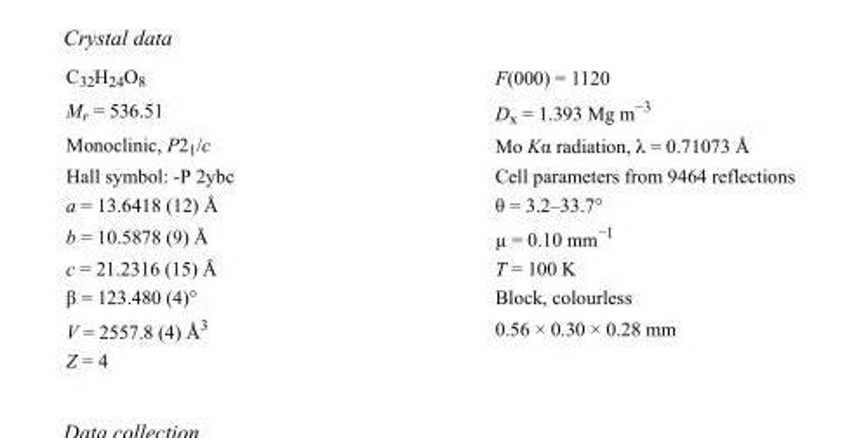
<table><tbody><tr><td>C<sub>32</sub>H<sub>24</sub>O<sub>8</sub></td><td>F(000) = 1120</td></tr><tr><td>M<sub>r</sub> = 536.51</td><td>D<sub>x</sub> = 1.393 Mg m<sup>−3</sup></td></tr><tr><td>Monoclinic, P2<sub>1</sub>/c</td><td>Mo Kα radiation, λ = 0.71073 Å</td></tr><tr><td>Hall symbol: -P 2ybc</td><td>Cell parameters from 9464 reflections</td></tr><tr><td>a = 13.6418 (12) Å</td><td>θ = 3.2–33.7°</td></tr><tr><td>b = 10.5878 (9) Å</td><td>µ = 0.10 mm<sup>−1</sup></td></tr><tr><td>c = 21.2316 (15) Å</td><td>T = 100 K</td></tr><tr><td>β = 123.480 (4)°</td><td>Block, colourless</td></tr><tr><td>V = 2557.8 (4) Å<sup>3</sup></td><td>0.56 × 0.30 × 0.28 mm</td></tr><tr><td>Z = 4</td><td></td></tr></tbody></table>